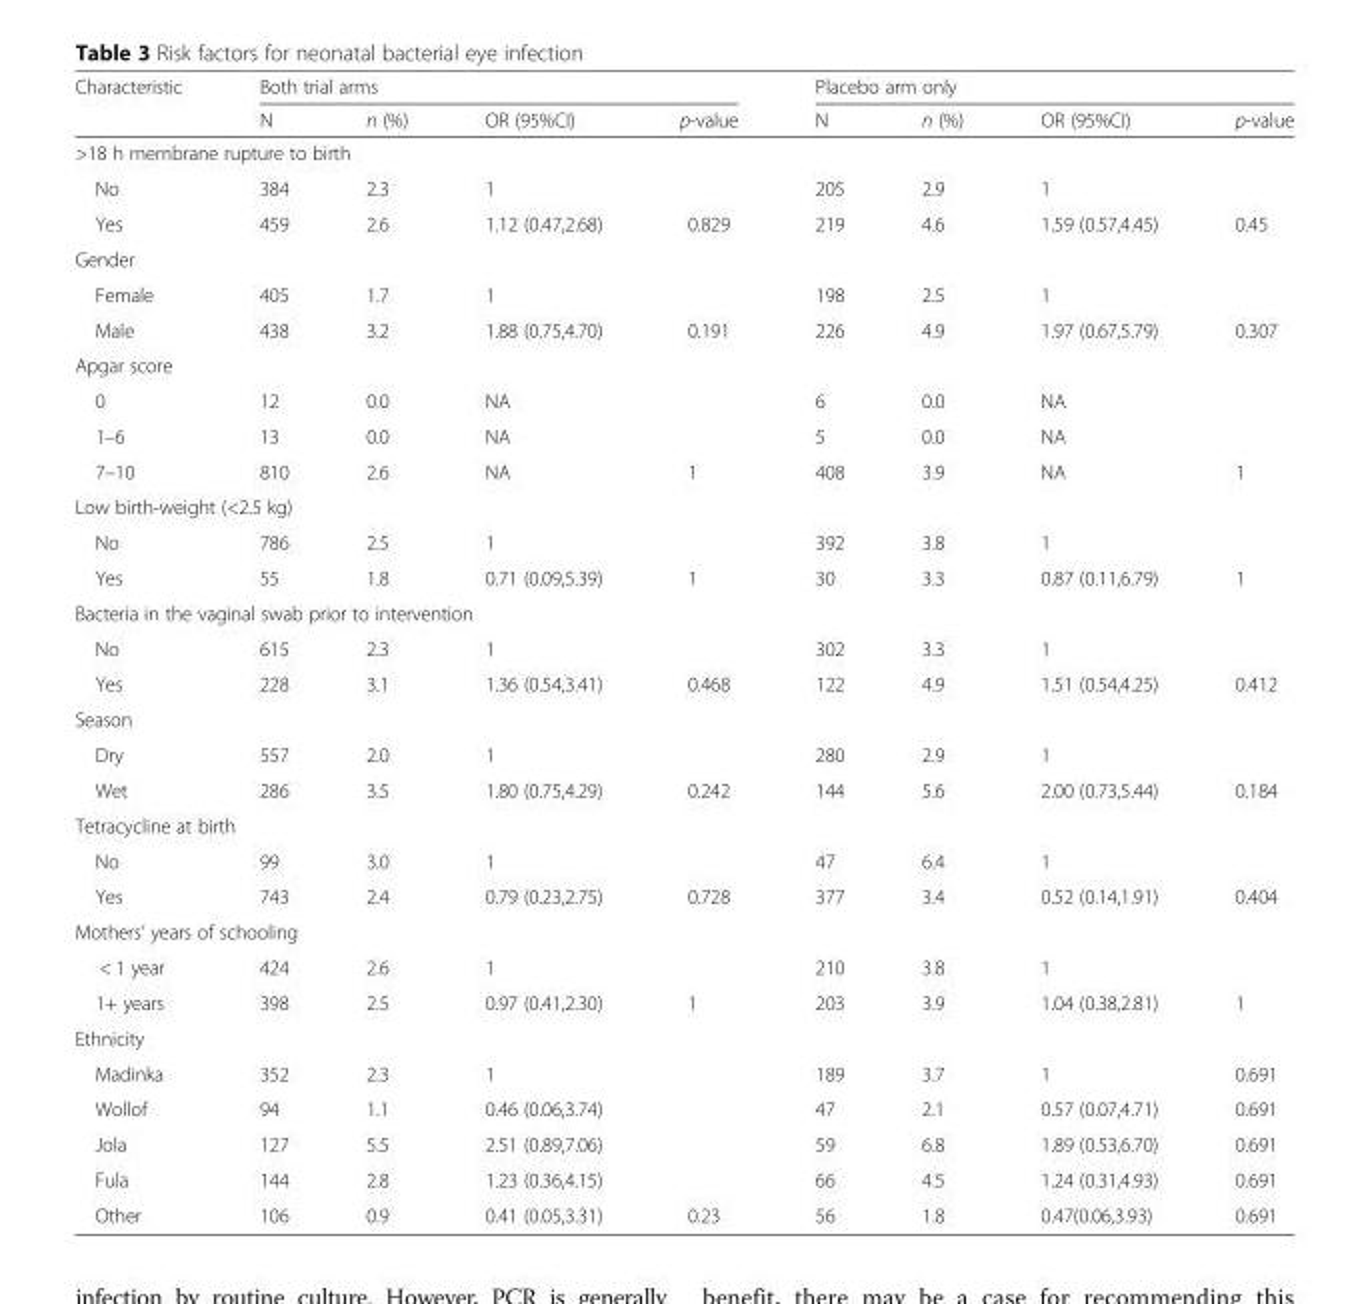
<table><thead><tr><td rowspan="2">Characteristic</td><td colspan="4">Both trial arms</td><td colspan="4">Placebo arm only</td></tr><tr><td>N</td><td>n (%)</td><td>OR (95%CI)</td><td>p-value</td><td>N</td><td>n (%)</td><td>OR (95%CI)</td><td>p-value</td></tr></thead><tbody><tr><td colspan="9">&gt;18 h membrane rupture to birth</td></tr><tr><td>No</td><td>384</td><td>2.3</td><td>1</td><td></td><td>205</td><td>2.9</td><td>1</td><td></td></tr><tr><td>Yes</td><td>459</td><td>2.6</td><td>1.12 (0.47,2.68)</td><td>0.829</td><td>219</td><td>4.6</td><td>1.59 (0.57,4.45)</td><td>0.45</td></tr><tr><td colspan="9">Gender</td></tr><tr><td>Female</td><td>405</td><td>1.7</td><td>1</td><td></td><td>198</td><td>2.5</td><td>1</td><td></td></tr><tr><td>Male</td><td>438</td><td>3.2</td><td>1.88 (0.75,4.70)</td><td>0.191</td><td>226</td><td>4.9</td><td>1.97 (0.67,5.79)</td><td>0.307</td></tr><tr><td colspan="9">Apgar score</td></tr><tr><td>0</td><td>12</td><td>0.0</td><td>NA</td><td></td><td>6</td><td>0.0</td><td>NA</td><td></td></tr><tr><td>1–6</td><td>13</td><td>0.0</td><td>NA</td><td></td><td>5</td><td>0.0</td><td>NA</td><td></td></tr><tr><td>7–10</td><td>810</td><td>2.6</td><td>NA</td><td>1</td><td>408</td><td>3.9</td><td>NA</td><td>1</td></tr><tr><td colspan="9">Low birth-weight (&lt;2.5 kg)</td></tr><tr><td>No</td><td>786</td><td>2.5</td><td>1</td><td></td><td>392</td><td>3.8</td><td>1</td><td></td></tr><tr><td>Yes</td><td>55</td><td>1.8</td><td>0.71 (0.09,5.39)</td><td>1</td><td>30</td><td>3.3</td><td>0.87 (0.11,6.79)</td><td>1</td></tr><tr><td colspan="9">Bacteria in the vaginal swab prior to intervention</td></tr><tr><td>No</td><td>615</td><td>2.3</td><td>1</td><td></td><td>302</td><td>3.3</td><td>1</td><td></td></tr><tr><td>Yes</td><td>228</td><td>3.1</td><td>1.36 (0.54,3.41)</td><td>0.468</td><td>122</td><td>4.9</td><td>1.51 (0.54,4.25)</td><td>0.412</td></tr><tr><td colspan="9">Season</td></tr><tr><td>Dry</td><td>557</td><td>2.0</td><td>1</td><td></td><td>280</td><td>2.9</td><td>1</td><td></td></tr><tr><td>Wet</td><td>286</td><td>3.5</td><td>1.80 (0.75,4.29)</td><td>0.242</td><td>144</td><td>5.6</td><td>2.00 (0.73,5.44)</td><td>0.184</td></tr><tr><td colspan="9">Tetracycline at birth</td></tr><tr><td>No</td><td>99</td><td>3.0</td><td>1</td><td></td><td>47</td><td>6.4</td><td>1</td><td></td></tr><tr><td>Yes</td><td>743</td><td>2.4</td><td>0.79 (0.23,2.75)</td><td>0.728</td><td>377</td><td>3.4</td><td>0.52 (0.14,1.91)</td><td>0.404</td></tr><tr><td colspan="9">Mothers’ years of schooling</td></tr><tr><td>&lt; 1 year</td><td>424</td><td>2.6</td><td>1</td><td></td><td>210</td><td>3.8</td><td>1</td><td></td></tr><tr><td>1+ years</td><td>398</td><td>2.5</td><td>0.97 (0.41,2.30)</td><td>1</td><td>203</td><td>3.9</td><td>1.04 (0.38,2.81)</td><td>1</td></tr><tr><td colspan="9">Ethnicity</td></tr><tr><td>Madinka</td><td>352</td><td>2.3</td><td>1</td><td></td><td>189</td><td>3.7</td><td>1</td><td>0.691</td></tr><tr><td>Wollof</td><td>94</td><td>1.1</td><td>0.46 (0.06,3.74)</td><td></td><td>47</td><td>2.1</td><td>0.57 (0.07,4.71)</td><td>0.691</td></tr><tr><td>Jola</td><td>127</td><td>5.5</td><td>2.51 (0.89,7.06)</td><td></td><td>59</td><td>6.8</td><td>1.89 (0.53,6.70)</td><td>0.691</td></tr><tr><td>Fula</td><td>144</td><td>2.8</td><td>1.23 (0.36,4.15)</td><td></td><td>66</td><td>4.5</td><td>1.24 (0.31,4.93)</td><td>0.691</td></tr><tr><td>Other</td><td>106</td><td>0.9</td><td>0.41 (0.05,3.31)</td><td>0.23</td><td>56</td><td>1.8</td><td>0.47(0.06,3.93)</td><td>0.691</td></tr></tbody></table>